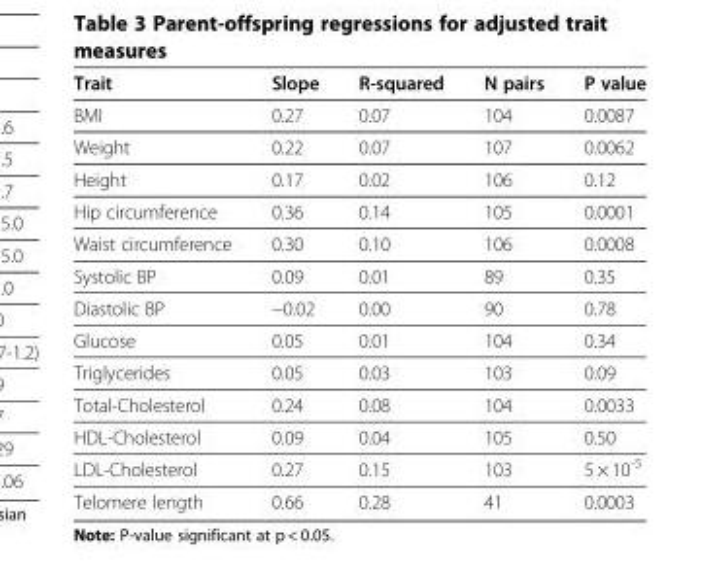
<table><thead><tr><td>Trait</td><td>Slope</td><td>R-squared</td><td>N pairs</td><td>P value</td></tr></thead><tbody><tr><td>BMI</td><td>0.27</td><td>0.07</td><td>104</td><td>0.0087</td></tr><tr><td>Weight</td><td>0.22</td><td>0.07</td><td>107</td><td>0.0062</td></tr><tr><td>Height</td><td>0.17</td><td>0.02</td><td>106</td><td>0.12</td></tr><tr><td>Hip circumference</td><td>0.36</td><td>0.14</td><td>105</td><td>0.0001</td></tr><tr><td>Waist circumference</td><td>0.30</td><td>0.10</td><td>106</td><td>0.0008</td></tr><tr><td>Systolic BP</td><td>0.09</td><td>0.01</td><td>89</td><td>0.35</td></tr><tr><td>Diastolic BP</td><td>−0.02</td><td>0.00</td><td>90</td><td>0.78</td></tr><tr><td>Glucose</td><td>0.05</td><td>0.01</td><td>104</td><td>0.34</td></tr><tr><td>Triglycerides</td><td>0.05</td><td>0.03</td><td>103</td><td>0.09</td></tr><tr><td>Total-Cholesterol</td><td>0.24</td><td>0.08</td><td>104</td><td>0.0033</td></tr><tr><td>HDL-Cholesterol</td><td>0.09</td><td>0.04</td><td>105</td><td>0.50</td></tr><tr><td>LDL-Cholesterol</td><td>0.27</td><td>0.15</td><td>103</td><td>5 × 10<sup>-5</sup></td></tr><tr><td>Telomere length</td><td>0.66</td><td>0.28</td><td>41</td><td>0.0003</td></tr></tbody></table>